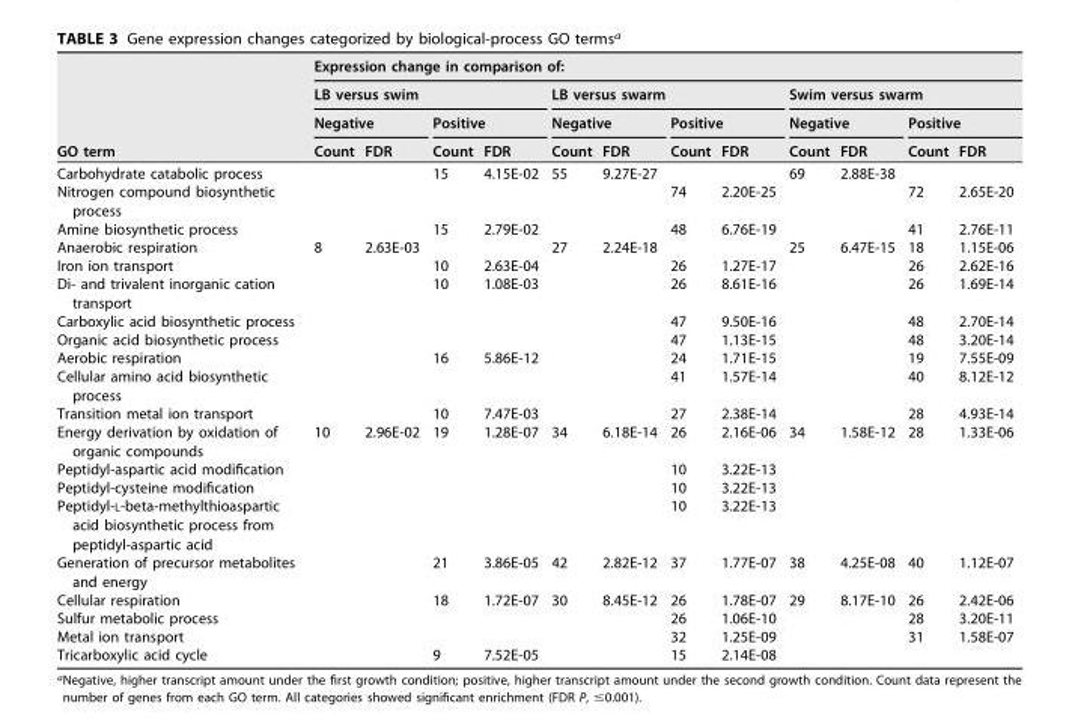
<table><thead><tr><td rowspan="4">GO term</td><td colspan="12">Expression change in comparison of:</td></tr><tr><td colspan="4">LB versus swim</td><td colspan="4">LB versus swarm</td><td colspan="4">Swim versus swarm</td></tr><tr><td colspan="2">Negative</td><td colspan="2">Positive</td><td colspan="2">Negative</td><td colspan="2">Positive</td><td colspan="2">Negative</td><td colspan="2">Positive</td></tr><tr><td>Count</td><td>FDR</td><td>Count</td><td>FDR</td><td>Count</td><td>FDR</td><td>Count</td><td>FDR</td><td>Count</td><td>FDR</td><td>Count</td><td>FDR</td></tr></thead><tbody><tr><td>Carbohydrate catabolic process</td><td></td><td></td><td>15</td><td>4.15E-02</td><td>55</td><td>9.27E-27</td><td></td><td></td><td>69</td><td>2.88E-38</td><td></td><td></td></tr><tr><td>Nitrogen compound biosynthetic process</td><td></td><td></td><td></td><td></td><td></td><td></td><td>74</td><td>2.20E-25</td><td></td><td></td><td>72</td><td>2.65E-20</td></tr><tr><td>Amine biosynthetic process</td><td></td><td></td><td>15</td><td>2.79E-02</td><td></td><td></td><td>48</td><td>6.76E-19</td><td></td><td></td><td>41</td><td>2.76E-11</td></tr><tr><td>Anaerobic respiration</td><td>8</td><td>2.63E-03</td><td></td><td></td><td>27</td><td>2.24E-18</td><td></td><td></td><td>25</td><td>6.47E-15</td><td>18</td><td>1.15E-06</td></tr><tr><td>Iron ion transport</td><td></td><td></td><td>10</td><td>2.63E-04</td><td></td><td></td><td>26</td><td>1.27E-17</td><td></td><td></td><td>26</td><td>2.62E-16</td></tr><tr><td>Di- and trivalent inorganic cation transport</td><td></td><td></td><td>10</td><td>1.08E-03</td><td></td><td></td><td>26</td><td>8.61E-16</td><td></td><td></td><td>26</td><td>1.69E-14</td></tr><tr><td>Carboxylic acid biosynthetic process</td><td></td><td></td><td></td><td></td><td></td><td></td><td>47</td><td>9.50E-16</td><td></td><td></td><td>48</td><td>2.70E-14</td></tr><tr><td>Organic acid biosynthetic process</td><td></td><td></td><td></td><td></td><td></td><td></td><td>47</td><td>1.13E-15</td><td></td><td></td><td>48</td><td>3.20E-14</td></tr><tr><td>Aerobic respiration</td><td></td><td></td><td>16</td><td>5.86E-12</td><td></td><td></td><td>24</td><td>1.71E-15</td><td></td><td></td><td>19</td><td>7.55E-09</td></tr><tr><td>Cellular amino acid biosynthetic process</td><td></td><td></td><td></td><td></td><td></td><td></td><td>41</td><td>1.57E-14</td><td></td><td></td><td>40</td><td>8.12E-12</td></tr><tr><td>Transition metal ion transport</td><td></td><td></td><td>10</td><td>7.47E-03</td><td></td><td></td><td>27</td><td>2.38E-14</td><td></td><td></td><td>28</td><td>4.93E-14</td></tr><tr><td>Energy derivation by oxidation of organic compounds</td><td>10</td><td>2.96E-02</td><td>19</td><td>1.28E-07</td><td>34</td><td>6.18E-14</td><td>26</td><td>2.16E-06</td><td>34</td><td>1.58E-12</td><td>28</td><td>1.33E-06</td></tr><tr><td>Peptidyl-aspartic acid modification</td><td></td><td></td><td></td><td></td><td></td><td></td><td>10</td><td>3.22E-13</td><td></td><td></td><td></td><td></td></tr><tr><td>Peptidyl-cysteine modification</td><td></td><td></td><td></td><td></td><td></td><td></td><td>10</td><td>3.22E-13</td><td></td><td></td><td></td><td></td></tr><tr><td>Peptidyl-L-beta-methylthioaspartic acid biosynthetic process from peptidyl-aspartic acid</td><td></td><td></td><td></td><td></td><td></td><td></td><td>10</td><td>3.22E-13</td><td></td><td></td><td></td><td></td></tr><tr><td>Generation of precursor metabolites and energy</td><td></td><td></td><td>21</td><td>3.86E-05</td><td>42</td><td>2.82E-12</td><td>37</td><td>1.77E-07</td><td>38</td><td>4.25E-08</td><td>40</td><td>1.12E-07</td></tr><tr><td>Cellular respiration</td><td></td><td></td><td>18</td><td>1.72E-07</td><td>30</td><td>8.45E-12</td><td>26</td><td>1.78E-07</td><td>29</td><td>8.17E-10</td><td>26</td><td>2.42E-06</td></tr><tr><td>Sulfur metabolic process</td><td></td><td></td><td></td><td></td><td></td><td></td><td>26</td><td>1.06E-10</td><td></td><td></td><td>28</td><td>3.20E-11</td></tr><tr><td>Metal ion transport</td><td></td><td></td><td></td><td></td><td></td><td></td><td>32</td><td>1.25E-09</td><td></td><td></td><td>31</td><td>1.58E-07</td></tr><tr><td>Tricarboxylic acid cycle</td><td></td><td></td><td>9</td><td>7.52E-05</td><td></td><td></td><td>15</td><td>2.14E-08</td><td></td><td></td><td></td><td></td></tr></tbody></table>